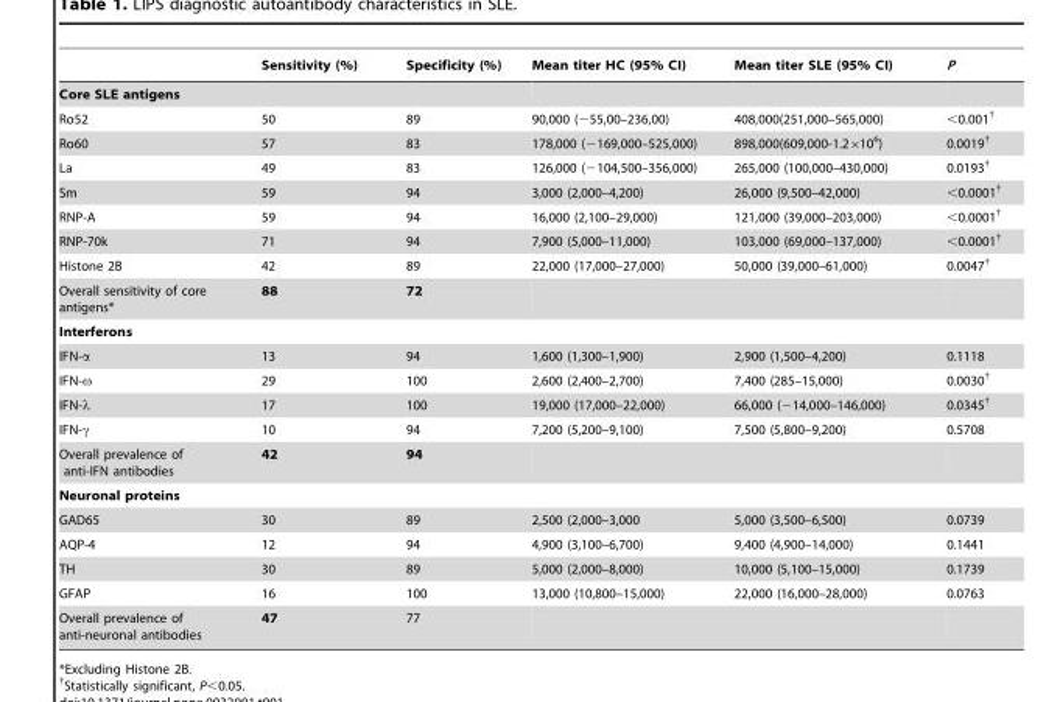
<table><thead><tr><td></td><td>Sensitivity (%)</td><td>Specificity (%)</td><td>Mean titer HC (95% CI)</td><td>Mean titer SLE (95% CI)</td><td>P</td></tr></thead><tbody><tr><td colspan="6">Core SLE antigens</td></tr><tr><td>Ro52</td><td>50</td><td>89</td><td>90,000 (−55,00–236,00)</td><td>408,000(251,000–565,000)</td><td>&lt;0.001†</td></tr><tr><td>Ro60</td><td>57</td><td>83</td><td>178,000 (−169,000–525,000)</td><td>898,000(609,000-1.2×10<sup>6</sup>)</td><td>0.0019†</td></tr><tr><td>La</td><td>49</td><td>83</td><td>126,000 (−104,500–356,000)</td><td>265,000 (100,000–430,000)</td><td>0.0193†</td></tr><tr><td>Sm</td><td>59</td><td>94</td><td>3,000 (2,000–4,200)</td><td>26,000 (9,500–42,000)</td><td>&lt;0.0001†</td></tr><tr><td>RNP-A</td><td>59</td><td>94</td><td>16,000 (2,100–29,000)</td><td>121,000 (39,000–203,000)</td><td>&lt;0.0001†</td></tr><tr><td>RNP-70k</td><td>71</td><td>94</td><td>7,900 (5,000–11,000)</td><td>103,000 (69,000–137,000)</td><td>&lt;0.0001†</td></tr><tr><td>Histone 2B</td><td>42</td><td>89</td><td>22,000 (17,000–27,000)</td><td>50,000 (39,000–61,000)</td><td>0.0047†</td></tr><tr><td>Overall sensitivity of core antigens*</td><td>88</td><td>72</td><td></td><td></td><td></td></tr><tr><td colspan="6">Interferons</td></tr><tr><td>IFN-α</td><td>13</td><td>94</td><td>1,600 (1,300–1,900)</td><td>2,900 (1,500–4,200)</td><td>0.1118</td></tr><tr><td>IFN-ω</td><td>29</td><td>100</td><td>2,600 (2,400–2,700)</td><td>7,400 (285–15,000)</td><td>0.0030†</td></tr><tr><td>IFN-λ</td><td>17</td><td>100</td><td>19,000 (17,000–22,000)</td><td>66,000 (−14,000–146,000)</td><td>0.0345†</td></tr><tr><td>IFN-γ</td><td>10</td><td>94</td><td>7,200 (5,200–9,100)</td><td>7,500 (5,800–9,200)</td><td>0.5708</td></tr><tr><td>Overall prevalence of anti-IFN antibodies</td><td>42</td><td>94</td><td></td><td></td><td></td></tr><tr><td colspan="6">Neuronal proteins</td></tr><tr><td>GAD65</td><td>30</td><td>89</td><td>2,500 (2,000–3,000</td><td>5,000 (3,500–6,500)</td><td>0.0739</td></tr><tr><td>AQP-4</td><td>12</td><td>94</td><td>4,900 (3,100–6,700)</td><td>9,400 (4,900–14,000)</td><td>0.1441</td></tr><tr><td>TH</td><td>30</td><td>89</td><td>5,000 (2,000–8,000)</td><td>10,000 (5,100–15,000)</td><td>0.1739</td></tr><tr><td>GFAP</td><td>16</td><td>100</td><td>13,000 (10,800–15,000)</td><td>22,000 (16,000–28,000)</td><td>0.0763</td></tr><tr><td>Overall prevalence of anti-neuronal antibodies</td><td>47</td><td>77</td><td></td><td></td><td></td></tr></tbody></table>